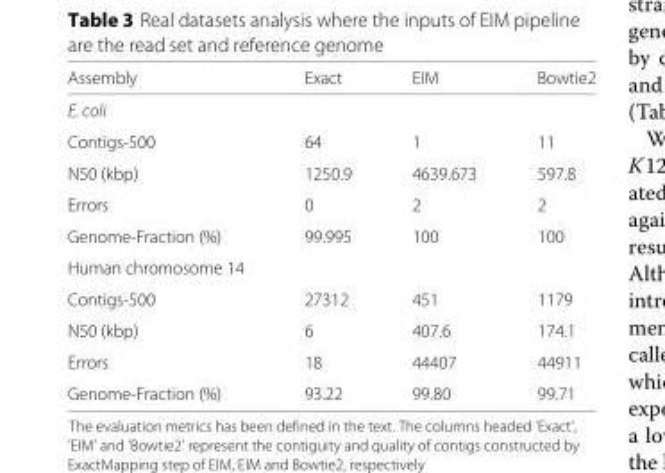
<table><thead><tr><td>Assembly</td><td>Exact</td><td>EIM</td><td>Bowtie2</td></tr></thead><tbody><tr><td colspan="4">E. coli</td></tr><tr><td>Contigs-500</td><td>64</td><td>1</td><td>11</td></tr><tr><td>N50 (kbp)</td><td>1250.9</td><td>4639.673</td><td>597.8</td></tr><tr><td>Errors</td><td>0</td><td>2</td><td>2</td></tr><tr><td>Genome-Fraction (%)</td><td>99.995</td><td>100</td><td>100</td></tr><tr><td colspan="4">Human chromosome 14</td></tr><tr><td>Contigs-500</td><td>27312</td><td>451</td><td>1179</td></tr><tr><td>N50 (kbp)</td><td>6</td><td>407.6</td><td>174.1</td></tr><tr><td>Errors</td><td>18</td><td>44407</td><td>44911</td></tr><tr><td>Genome-Fraction (%)</td><td>93.22</td><td>99.80</td><td>99.71</td></tr></tbody></table>